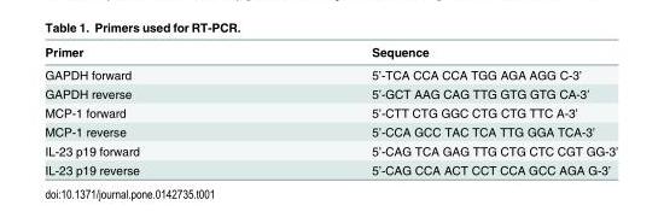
<table><thead><tr><td>Primer</td><td>Sequence</td></tr></thead><tbody><tr><td>GAPDH forward</td><td>5’-TCA CCA CCA TGG AGA AGG C-3’</td></tr><tr><td>GAPDH reverse</td><td>5’-GCT AAG CAG TTG GTG GTG CA-3’</td></tr><tr><td>MCP-1 forward</td><td>5’-CTT CTG GGC CTG CTG TTC A-3’</td></tr><tr><td>MCP-1 reverse</td><td>5’-CCA GCC TAC TCA TTG GGA TCA-3’</td></tr><tr><td>IL-23 p19 forward</td><td>5’-CAG TCA GAG TTG CTG CTC CGT GG-3’</td></tr><tr><td>IL-23 p19 reverse</td><td>5’-CAG CCA ACT CCT CCA GCC AGA G-3’</td></tr></tbody></table>